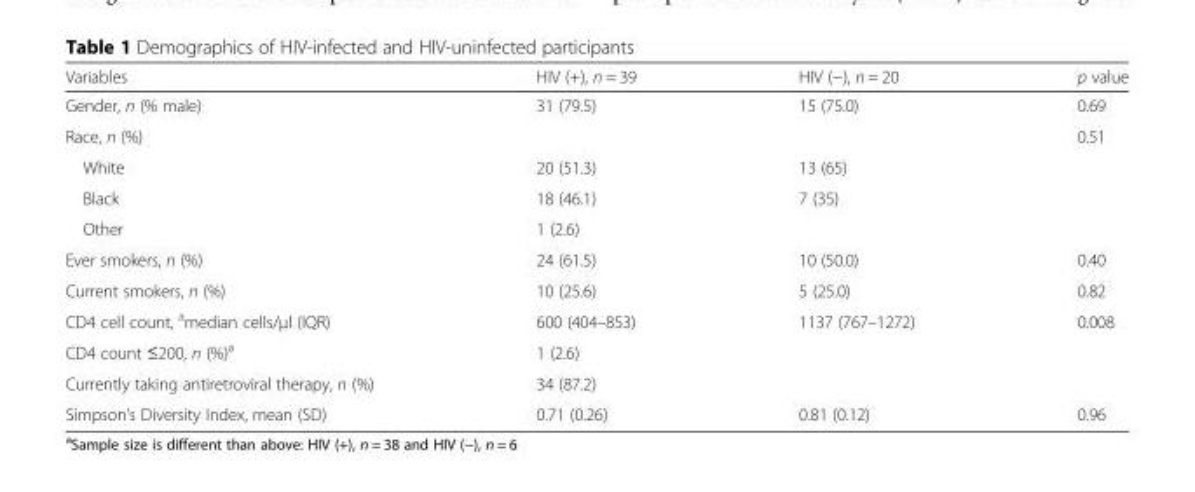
<table><thead><tr><td>Variables</td><td>HIV (+), n = 39</td><td>HIV (−), n = 20</td><td>p value</td></tr></thead><tbody><tr><td>Gender, n (% male)</td><td>31 (79.5)</td><td>15 (75.0)</td><td>0.69</td></tr><tr><td>Race, n (%)</td><td></td><td></td><td>0.51</td></tr><tr><td>White</td><td>20 (51.3)</td><td>13 (65)</td><td></td></tr><tr><td>Black</td><td>18 (46.1)</td><td>7 (35)</td><td></td></tr><tr><td>Other</td><td>1 (2.6)</td><td></td><td></td></tr><tr><td>Ever smokers, n (%)</td><td>24 (61.5)</td><td>10 (50.0)</td><td>0.40</td></tr><tr><td>Current smokers, n (%)</td><td>10 (25.6)</td><td>5 (25.0)</td><td>0.82</td></tr><tr><td>CD4 cell count, <sup>a</sup>median cells/μl (IQR)</td><td>600 (404–853)</td><td>1137 (767–1272)</td><td>0.008</td></tr><tr><td>CD4 count ≤200, n (%)<sup>a</sup></td><td>1 (2.6)</td><td></td><td></td></tr><tr><td>Currently taking antiretroviral therapy, n (%)</td><td>34 (87.2)</td><td></td><td></td></tr><tr><td>Simpson’s Diversity Index, mean (SD)</td><td>0.71 (0.26)</td><td>0.81 (0.12)</td><td>0.96</td></tr></tbody></table>